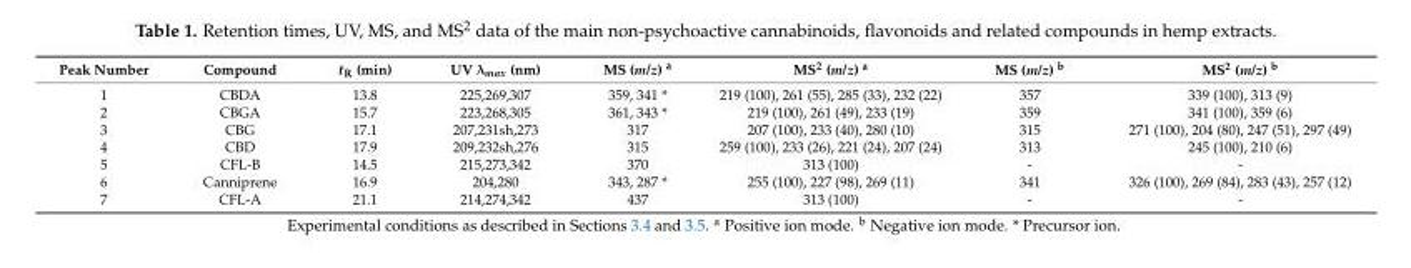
<table><thead><tr><td>Peak Number</td><td>Compound</td><td>t<sub>R</sub> (min)</td><td>UV λ<sub>max</sub> (nm)</td><td>MS (m/z) <sup>a</sup></td><td>MS<sup>2</sup> (m/z) <sup>a</sup></td><td>MS (m/z) <sup>b</sup></td><td>MS<sup>2</sup> (m/z) <sup>b</sup></td></tr></thead><tbody><tr><td>1</td><td>CBDA</td><td>13.8</td><td>225,269,307</td><td>359, 341 *</td><td>219 (100), 261 (55), 285 (33), 232 (22)</td><td>357</td><td>339 (100), 313 (9)</td></tr><tr><td>2</td><td>CBGA</td><td>15.7</td><td>223,268,305</td><td>361, 343 *</td><td>219 (100), 261 (49), 233 (19)</td><td>359</td><td>341 (100), 359 (6)</td></tr><tr><td>3</td><td>CBG</td><td>17.1</td><td>207,231sh,273</td><td>317</td><td>207 (100), 233 (40), 280 (10)</td><td>315</td><td>271 (100), 204 (80), 247 (51), 297 (49)</td></tr><tr><td>4</td><td>CBD</td><td>17.9</td><td>209,232sh,276</td><td>315</td><td>259 (100), 233 (26), 221 (24), 207 (24)</td><td>313</td><td>245 (100), 210 (6)</td></tr><tr><td>5</td><td>CFL-B</td><td>14.5</td><td>215,273,342</td><td>370</td><td>313 (100)</td><td>-</td><td>-</td></tr><tr><td>6</td><td>Canniprene</td><td>16.9</td><td>204,280</td><td>343, 287 *</td><td>255 (100), 227 (98), 269 (11)</td><td>341</td><td>326 (100), 269 (84), 283 (43), 257 (12)</td></tr><tr><td>7</td><td>CFL-A</td><td>21.1</td><td>214,274,342</td><td>437</td><td>313 (100)</td><td>-</td><td>-</td></tr></tbody></table>